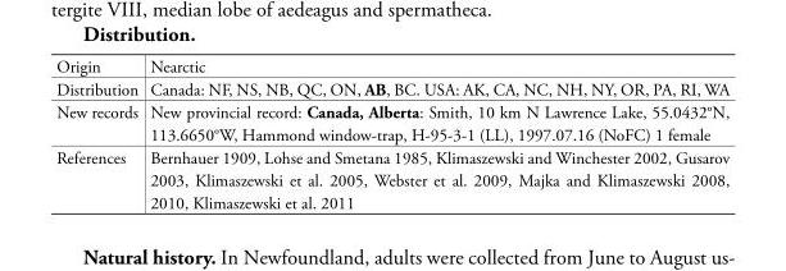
<table><tbody><tr><td>Origin</td><td>Nearctic</td></tr><tr><td>Distribution</td><td>Canada: NF, NS, NB, QC, ON, AB, BC. USA: AK, CA, NC, NH, NY, OR, PA, RI, WA</td></tr><tr><td>New records</td><td>New provincial record: Canada, Alberta: Smith, 10 km N Lawrence Lake, 55.0432°N, 113.6650°W, Hammond window-trap, H-95-3-1 (LL), 1997.07.16 (NoFC) 1 female</td></tr><tr><td>References</td><td>Bernhauer 1909, Lohse and Smetana 1985, Klimaszewski and Winchester 2002, Gusarov 2003, Klimaszewski et al. 2005, Webster et al. 2009, Majka and Klimaszewski 2008, 2010, Klimaszewski et al. 2011</td></tr></tbody></table>